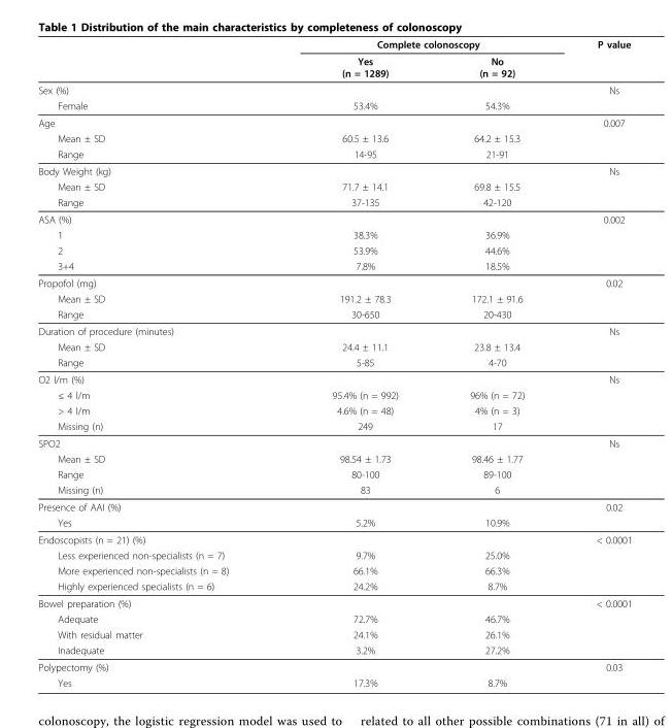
<table><thead><tr><td rowspan="2"></td><td colspan="2">Complete colonoscopy</td><td rowspan="2">P value</td></tr><tr><td>Yes (n = 1289)</td><td>No (n = 92)</td></tr></thead><tbody><tr><td>Sex (%)</td><td></td><td></td><td>Ns</td></tr><tr><td>Female</td><td>53.4%</td><td>54.3%</td><td></td></tr><tr><td>Age</td><td></td><td></td><td>0.007</td></tr><tr><td>Mean ± SD</td><td>60.5 ± 13.6</td><td>64.2 ± 15.3</td><td></td></tr><tr><td>Range</td><td>14-95</td><td>21-91</td><td></td></tr><tr><td>Body Weight (kg)</td><td></td><td></td><td>Ns</td></tr><tr><td>Mean ± SD</td><td>71.7 ± 14.1</td><td>69.8 ± 15.5</td><td></td></tr><tr><td>Range</td><td>37-135</td><td>42-120</td><td></td></tr><tr><td>ASA (%)</td><td></td><td></td><td>0.002</td></tr><tr><td>1</td><td>38.3%</td><td>36.9%</td><td></td></tr><tr><td>2</td><td>53.9%</td><td>44.6%</td><td></td></tr><tr><td>3+4</td><td>7.8%</td><td>18.5%</td><td></td></tr><tr><td>Propofol (mg)</td><td></td><td></td><td>0.02</td></tr><tr><td>Mean ± SD</td><td>191.2 ± 78.3</td><td>172.1 ± 91.6</td><td></td></tr><tr><td>Range</td><td>30-650</td><td>20-430</td><td></td></tr><tr><td>Duration of procedure (minutes)</td><td></td><td></td><td>Ns</td></tr><tr><td>Mean ± SD</td><td>24.4 ± 11.1</td><td>23.8 ± 13.4</td><td></td></tr><tr><td>Range</td><td>5-85</td><td>4-70</td><td></td></tr><tr><td>O2 l/m (%)</td><td></td><td></td><td>Ns</td></tr><tr><td>≤ 4 l/m</td><td>95.4% (n = 992)</td><td>96% (n = 72)</td><td></td></tr><tr><td>&gt; 4 l/m</td><td>4.6% (n = 48)</td><td>4% (n = 3)</td><td></td></tr><tr><td>Missing (n)</td><td>249</td><td>17</td><td></td></tr><tr><td>SPO2</td><td></td><td></td><td>Ns</td></tr><tr><td>Mean ± SD</td><td>98.54 ± 1.73</td><td>98.46 ± 1.77</td><td></td></tr><tr><td>Range</td><td>80-100</td><td>89-100</td><td></td></tr><tr><td>Missing (n)</td><td>83</td><td>6</td><td></td></tr><tr><td>Presence of AAI (%)</td><td></td><td></td><td>0.02</td></tr><tr><td>Yes</td><td>5.2%</td><td>10.9%</td><td></td></tr><tr><td>Endoscopists (n = 21) (%)</td><td></td><td></td><td>&lt; 0.0001</td></tr><tr><td>Less experienced non-specialists (n = 7)</td><td>9.7%</td><td>25.0%</td><td></td></tr><tr><td>More experienced non-specialists (n = 8)</td><td>66.1%</td><td>66.3%</td><td></td></tr><tr><td>Highly experienced specialists (n = 6)</td><td>24.2%</td><td>8.7%</td><td></td></tr><tr><td>Bowel preparation (%)</td><td></td><td></td><td>&lt; 0.0001</td></tr><tr><td>Adequate</td><td>72.7%</td><td>46.7%</td><td></td></tr><tr><td>With residual matter</td><td>24.1%</td><td>26.1%</td><td></td></tr><tr><td>Inadequate</td><td>3.2%</td><td>27.2%</td><td></td></tr><tr><td>Polypectomy (%)</td><td></td><td></td><td>0.03</td></tr><tr><td>Yes</td><td>17.3%</td><td>8.7%</td><td></td></tr></tbody></table>